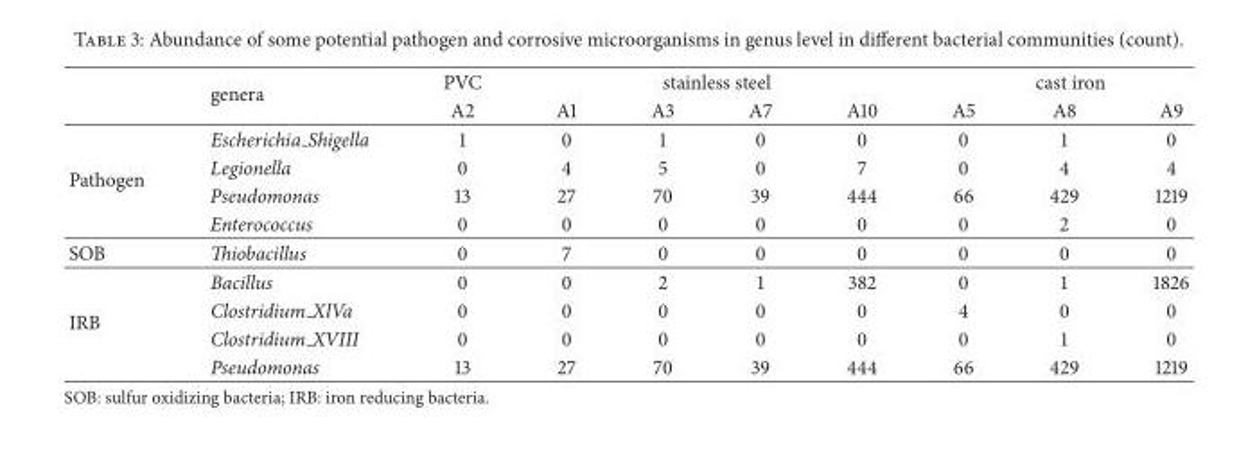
<table><thead><tr><td rowspan="2"></td><td rowspan="2">genera</td><td rowspan="2">PVC A2</td><td colspan="4">stainless steel</td><td colspan="3">cast iron</td></tr><tr><td>A1</td><td>A3</td><td>A7</td><td>A10</td><td>A5</td><td>A8</td><td>A9</td></tr></thead><tbody><tr><td rowspan="4">Pathogen</td><td>Escherichia Shigella</td><td>1</td><td>0</td><td>1</td><td>0</td><td>0</td><td>0</td><td>1</td><td>0</td></tr><tr><td>Legionella</td><td>0</td><td>4</td><td>5</td><td>0</td><td>7</td><td>0</td><td>4</td><td>4</td></tr><tr><td>Pseudomonas</td><td>13</td><td>27</td><td>70</td><td>39</td><td>444</td><td>66</td><td>429</td><td>1219</td></tr><tr><td>Enterococcus</td><td>0</td><td>0</td><td>0</td><td>0</td><td>0</td><td>0</td><td>2</td><td>0</td></tr><tr><td>SOB</td><td>Thiobacillus</td><td>0</td><td>7</td><td>0</td><td>0</td><td>0</td><td>0</td><td>0</td><td>0</td></tr><tr><td rowspan="4">IRB</td><td>Bacillus</td><td>0</td><td>0</td><td>2</td><td>1</td><td>382</td><td>0</td><td>1</td><td>1826</td></tr><tr><td>Clostridium XlVa</td><td>0</td><td>0</td><td>0</td><td>0</td><td>0</td><td>4</td><td>0</td><td>0</td></tr><tr><td>Clostridium XVIII</td><td>0</td><td>0</td><td>0</td><td>0</td><td>0</td><td>0</td><td>1</td><td>0</td></tr><tr><td>Pseudomonas</td><td>13</td><td>27</td><td>70</td><td>39</td><td>444</td><td>66</td><td>429</td><td>1219</td></tr></tbody></table>